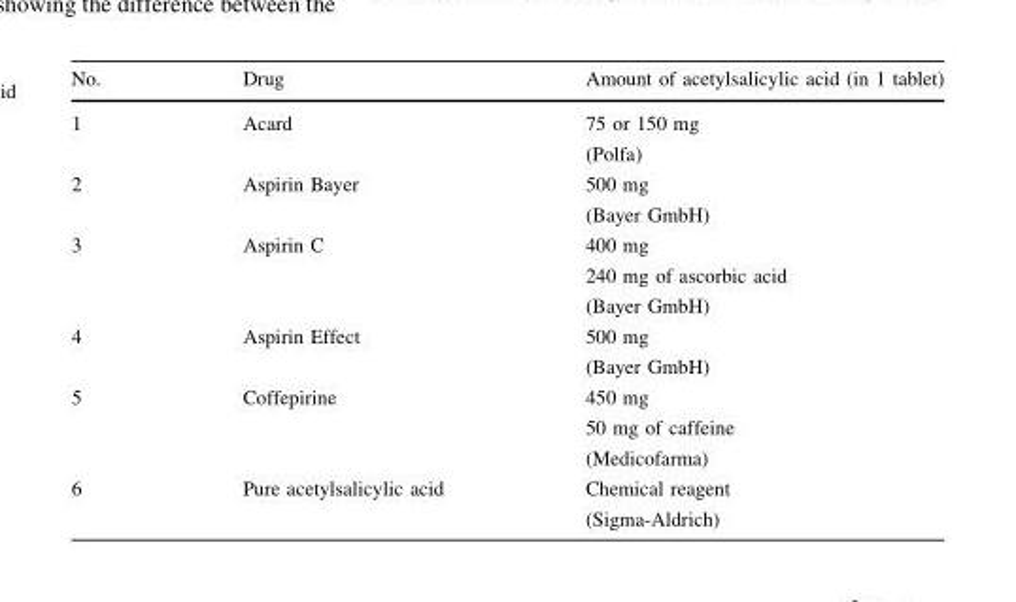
<table><thead><tr><td>No.</td><td>Drug</td><td>Amount of acetylsalicylic acid (in 1 tablet)</td></tr></thead><tbody><tr><td>1</td><td>Acard</td><td>75 or 150 mg (Polfa)</td></tr><tr><td>2</td><td>Aspirin Bayer</td><td>500 mg (Bayer GmbH)</td></tr><tr><td>3</td><td>Aspirin C</td><td>400 mg 240 mg of ascorbic acid (Bayer GmbH)</td></tr><tr><td>4</td><td>Aspirin Effect</td><td>500 mg (Bayer GmbH)</td></tr><tr><td>5</td><td>Coffepirine</td><td>450 mg 50 mg of caffeine (Medicofarma)</td></tr><tr><td>6</td><td>Pure acetylsalicylic acid</td><td>Chemical reagent (Sigma-Aldrich)</td></tr></tbody></table>